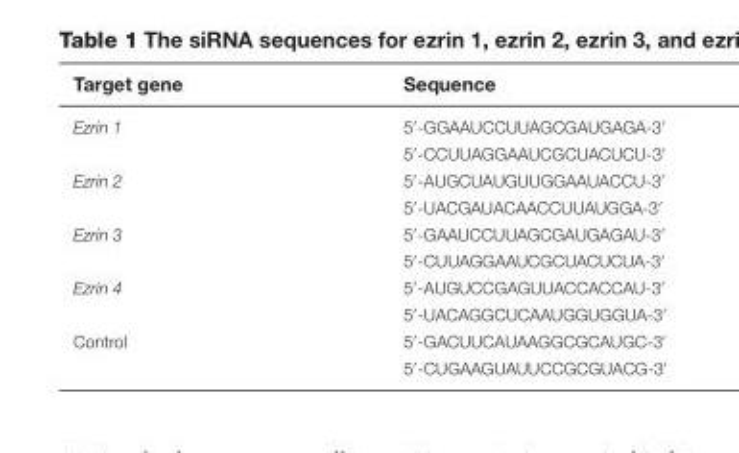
<table><thead><tr><td>Target gene</td><td>Sequence</td></tr></thead><tbody><tr><td rowspan="2">Ezrin 1</td><td>5′-GGAAUCCUUAGCGAUGAGA-3′</td></tr><tr><td>5′-CCUUAGGAAUCGCUACUCU-3′</td></tr><tr><td rowspan="2">Ezrin 2</td><td>5′-AUGCUAUGUUGGAAUACCU-3′</td></tr><tr><td>5′-UACGAUACAACCUUAUGGA-3′</td></tr><tr><td rowspan="2">Ezrin 3</td><td>5′-GAAUCCUUAGCGAUGAGAU-3′</td></tr><tr><td>5′-CUUAGGAAUCGCUACUCUA-3′</td></tr><tr><td rowspan="2">Ezrin 4</td><td>5′-AUGUCCGAGUUACCACCAU-3′</td></tr><tr><td>5′-UACAGGCUCAAUGGUGGUA-3′</td></tr><tr><td rowspan="2">Control</td><td>5′-GACUUCAUAAGGCGCAUGC-3′</td></tr><tr><td>5′-CUGAAGUAUUCCGCGUACG-3′</td></tr></tbody></table>